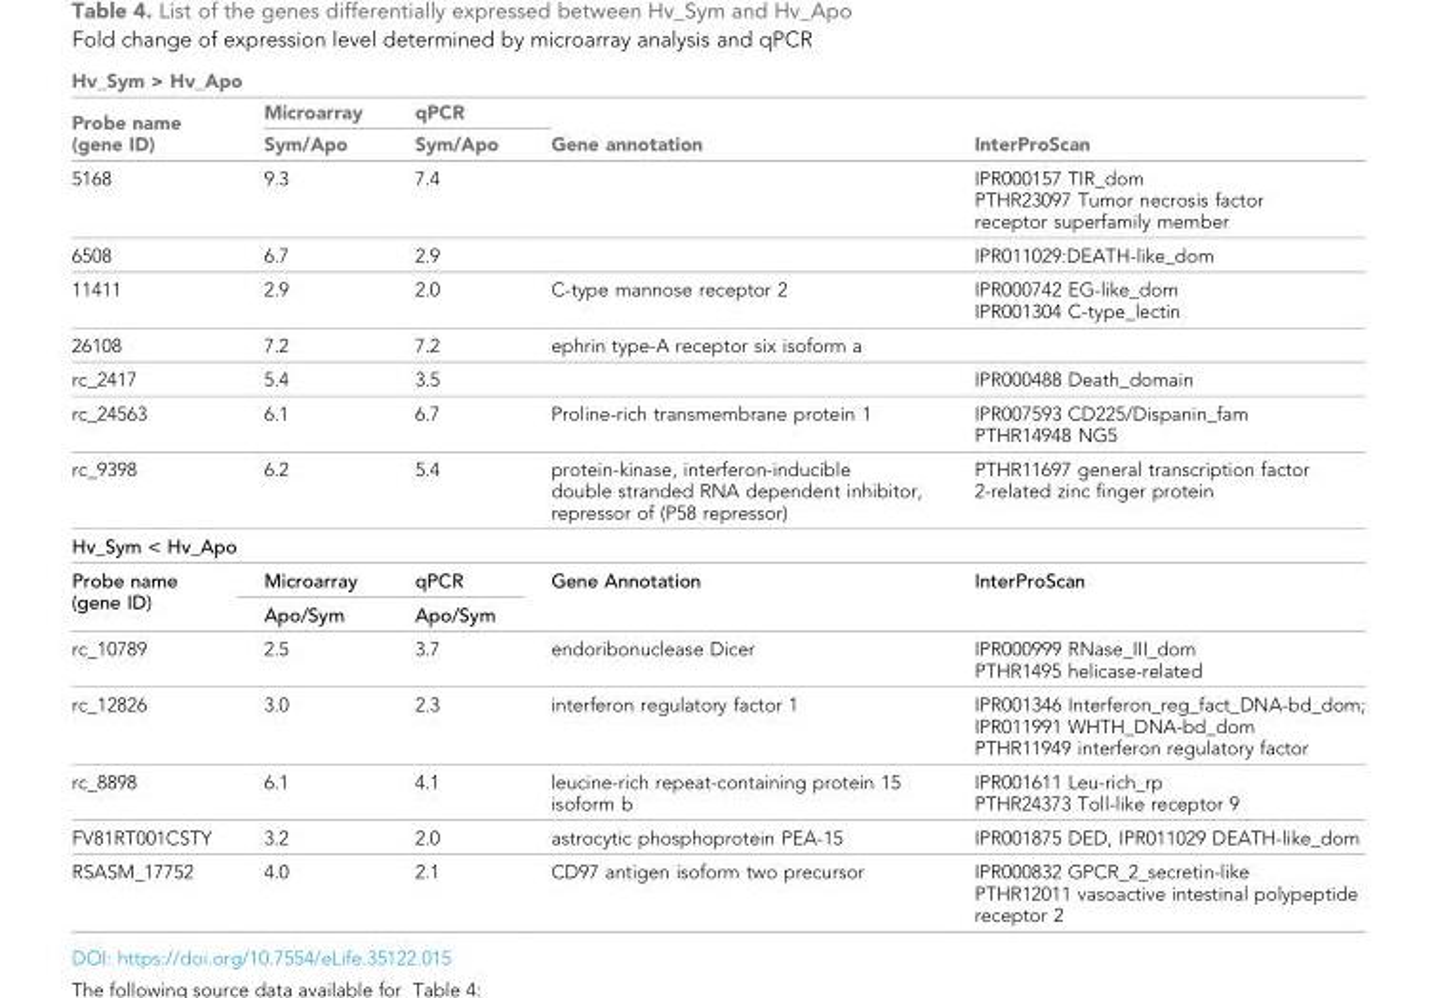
<table><thead><tr><td colspan="5">Hv_Sym &gt; Hv_Apo</td></tr><tr><td rowspan="2">Probe name (gene ID)</td><td rowspan="2">Microarray Sym/Apo</td><td rowspan="2">qPCR Sym/Apo</td><td rowspan="2">Gene annotation</td><td rowspan="2">InterProScan</td></tr><tr></tr></thead><tbody><tr><td>5168</td><td>9.3</td><td>7.4</td><td></td><td>IPR000157 TIR_dom PTHR23097 Tumor necrosis factor receptor superfamily member</td></tr><tr><td>6508</td><td>6.7</td><td>2.9</td><td></td><td>IPR011029:DEATH-like_dom</td></tr><tr><td>11411</td><td>2.9</td><td>2.0</td><td>C-type mannose receptor 2</td><td>IPR000742 EG-like_dom IPR001304 C-type_lectin</td></tr><tr><td>26108</td><td>7.2</td><td>7.2</td><td>ephrin type-A receptor six isoform a</td><td></td></tr><tr><td>rc_2417</td><td>5.4</td><td>3.5</td><td></td><td>IPR000488 Death_domain</td></tr><tr><td>rc_24563</td><td>6.1</td><td>6.7</td><td>Proline-rich transmembrane protein 1</td><td>IPR007593 CD225/Dispanin_fam PTHR14948 NG5</td></tr><tr><td>rc_9398</td><td>6.2</td><td>5.4</td><td>protein-kinase, interferon-inducible double stranded RNA dependent inhibitor, repressor of (P58 repressor)</td><td>PTHR11697 general transcription factor 2-related zinc finger protein</td></tr><tr><td colspan="5">Hv_Sym &lt; Hv_Apo</td></tr><tr><td rowspan="2">Probe name (gene ID)</td><td>Microarray</td><td>qPCR</td><td rowspan="2">Gene Annotation</td><td rowspan="2">InterProScan</td></tr><tr><td>Apo/Sym</td><td>Apo/Sym</td></tr><tr><td>rc_10789</td><td>2.5</td><td>3.7</td><td>endoribonuclease Dicer</td><td>IPR000999 RNase_III_dom PTHR1495 helicase-related</td></tr><tr><td>rc_12826</td><td>3.0</td><td>2.3</td><td>interferon regulatory factor 1</td><td>IPR001346 Interferon_reg_fact_DNA-bd_dom; IPR011991 WHTH_DNA-bd_dom PTHR11949 interferon regulatory factor</td></tr><tr><td>rc_8898</td><td>6.1</td><td>4.1</td><td>leucine-rich repeat-containing protein 15 isoform b</td><td>IPR001611 Leu-rich_rp PTHR24373 Toll-like receptor 9</td></tr><tr><td>FV81RT001CSTY</td><td>3.2</td><td>2.0</td><td>astrocytic phosphoprotein PEA-15</td><td>IPR001875 DED, IPR011029 DEATH-like_dom</td></tr><tr><td>RSASM_17752</td><td>4.0</td><td>2.1</td><td>CD97 antigen isoform two precursor</td><td>IPR000832 GPCR_2_secretin-like PTHR12011 vasoactive intestinal polypeptide receptor 2</td></tr></tbody></table>